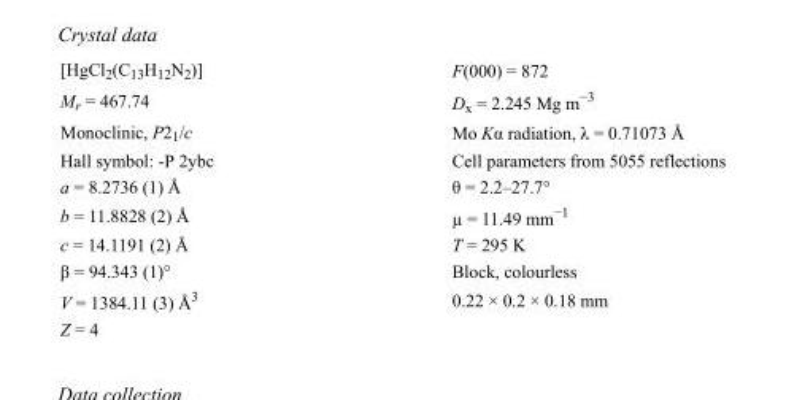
<table><tbody><tr><td>[HgCl<sub>2</sub>(C<sub>13</sub>H<sub>12</sub>N<sub>2</sub>)]</td><td>F(000) = 872</td></tr><tr><td>M<sub>r</sub> = 467.74</td><td>D<sub>x</sub> = 2.245 Mg m<sup>−3</sup></td></tr><tr><td>Monoclinic, P2<sub>1</sub>/c</td><td>Mo Kα radiation, λ = 0.71073 Å</td></tr><tr><td>Hall symbol: -P 2ybc</td><td>Cell parameters from 5055 reflections</td></tr><tr><td>a = 8.2736 (1) Å</td><td>θ = 2.2–27.7°</td></tr><tr><td>b = 11.8828 (2) Å</td><td>µ = 11.49 mm<sup>−1</sup></td></tr><tr><td>c = 14.1191 (2) Å</td><td>T = 295 K</td></tr><tr><td>β = 94.343 (1)°</td><td>Block, colourless</td></tr><tr><td>V = 1384.11 (3) Å<sup>3</sup></td><td>0.22 × 0.2 × 0.18 mm</td></tr><tr><td>Z = 4</td><td></td></tr></tbody></table>